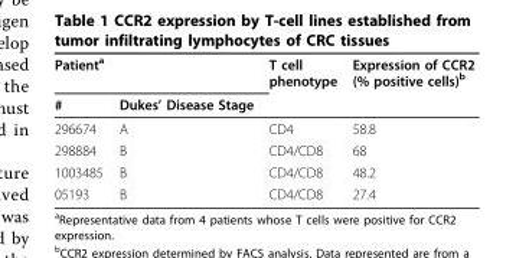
<table><thead><tr><td rowspan="2">Patient<sup>a</sup> #</td><td rowspan="2">Dukes’ Disease Stage</td><td rowspan="2">T cell phenotype</td><td rowspan="2">Expression of CCR2 (% positive cells)<sup>b</sup></td></tr><tr></tr></thead><tbody><tr><td>296674</td><td>A</td><td>CD4</td><td>58.8</td></tr><tr><td>298884</td><td>B</td><td>CD4/CD8</td><td>68</td></tr><tr><td>1003485</td><td>B</td><td>CD4/CD8</td><td>48.2</td></tr><tr><td>05193</td><td>B</td><td>CD4/CD8</td><td>27.4</td></tr></tbody></table>